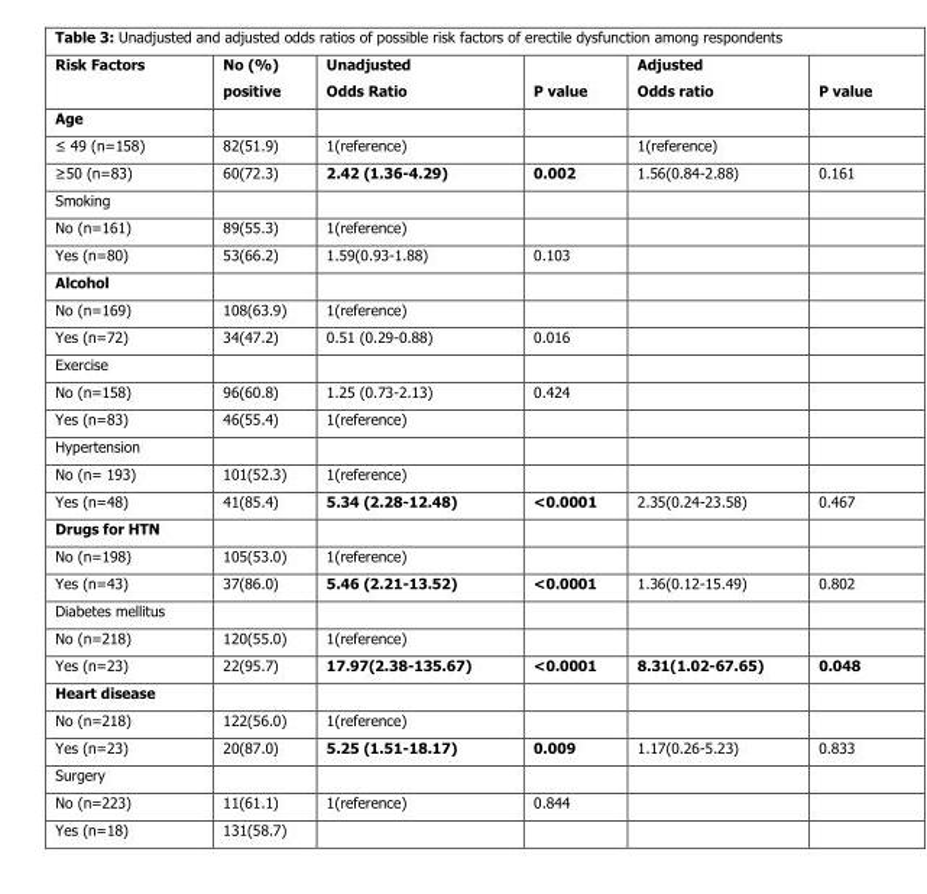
<table><thead><tr><td>Risk Factors</td><td>No (%) positive</td><td>Unadjusted Odds Ratio</td><td>P value</td><td>Adjusted Odds ratio</td><td>P value</td></tr></thead><tbody><tr><td colspan="6">Age</td></tr><tr><td>≤ 49 (n=158)</td><td>82(51.9)</td><td>1(reference)</td><td></td><td>1(reference)</td><td></td></tr><tr><td>≥50 (n=83)</td><td>60(72.3)</td><td>2.42 (1.36-4.29)</td><td>0.002</td><td>1.56(0.84-2.88)</td><td>0.161</td></tr><tr><td colspan="6">Smoking</td></tr><tr><td>No (n=161)</td><td>89(55.3)</td><td>1(reference)</td><td></td><td></td><td></td></tr><tr><td>Yes (n=80)</td><td>53(66.2)</td><td>1.59(0.93-1.88)</td><td>0.103</td><td></td><td></td></tr><tr><td colspan="6">Alcohol</td></tr><tr><td>No (n=169)</td><td>108(63.9)</td><td>1(reference)</td><td></td><td></td><td></td></tr><tr><td>Yes (n=72)</td><td>34(47.2)</td><td>0.51 (0.29-0.88)</td><td>0.016</td><td></td><td></td></tr><tr><td colspan="6">Exercise</td></tr><tr><td>No (n=158)</td><td>96(60.8)</td><td>1.25 (0.73-2.13)</td><td>0.424</td><td></td><td></td></tr><tr><td>Yes (n=83)</td><td>46(55.4)</td><td>1(reference)</td><td></td><td></td><td></td></tr><tr><td colspan="6">Hypertension</td></tr><tr><td>No (n= 193)</td><td>101(52.3)</td><td>1(reference)</td><td></td><td></td><td></td></tr><tr><td>Yes (n=48)</td><td>41(85.4)</td><td>5.34 (2.28-12.48)</td><td>&lt;0.0001</td><td>2.35(0.24-23.58)</td><td>0.467</td></tr><tr><td colspan="6">Drugs for HTN</td></tr><tr><td>No (n=198)</td><td>105(53.0)</td><td>1(reference)</td><td></td><td></td><td></td></tr><tr><td>Yes (n=43)</td><td>37(86.0)</td><td>5.46 (2.21-13.52)</td><td>&lt;0.0001</td><td>1.36(0.12-15.49)</td><td>0.802</td></tr><tr><td colspan="6">Diabetes mellitus</td></tr><tr><td>No (n=218)</td><td>120(55.0)</td><td>1(reference)</td><td></td><td></td><td></td></tr><tr><td>Yes (n=23)</td><td>22(95.7)</td><td>17.97(2.38-135.67)</td><td>&lt;0.0001</td><td>8.31(1.02-67.65)</td><td>0.048</td></tr><tr><td colspan="6">Heart disease</td></tr><tr><td>No (n=218)</td><td>122(56.0)</td><td>1(reference)</td><td></td><td></td><td></td></tr><tr><td>Yes (n=23)</td><td>20(87.0)</td><td>5.25 (1.51-18.17)</td><td>0.009</td><td>1.17(0.26-5.23)</td><td>0.833</td></tr><tr><td colspan="6">Surgery</td></tr><tr><td>No (n=223)</td><td>11(61.1)</td><td>1(reference)</td><td>0.844</td><td></td><td></td></tr><tr><td>Yes (n=18)</td><td>131(58.7)</td><td></td><td></td><td></td><td></td></tr></tbody></table>